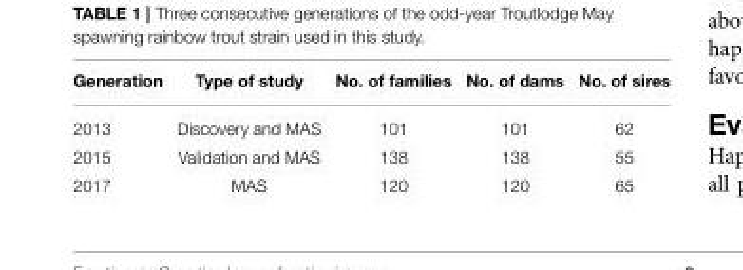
<table><thead><tr><td>Generation</td><td>Type of study</td><td>No. of families</td><td>No. of dams</td><td>No. of sires</td></tr></thead><tbody><tr><td>2013</td><td>Discovery and MAS</td><td>101</td><td>101</td><td>62</td></tr><tr><td>2015</td><td>Validation and MAS</td><td>138</td><td>138</td><td>55</td></tr><tr><td>2017</td><td>MAS</td><td>120</td><td>120</td><td>65</td></tr></tbody></table>